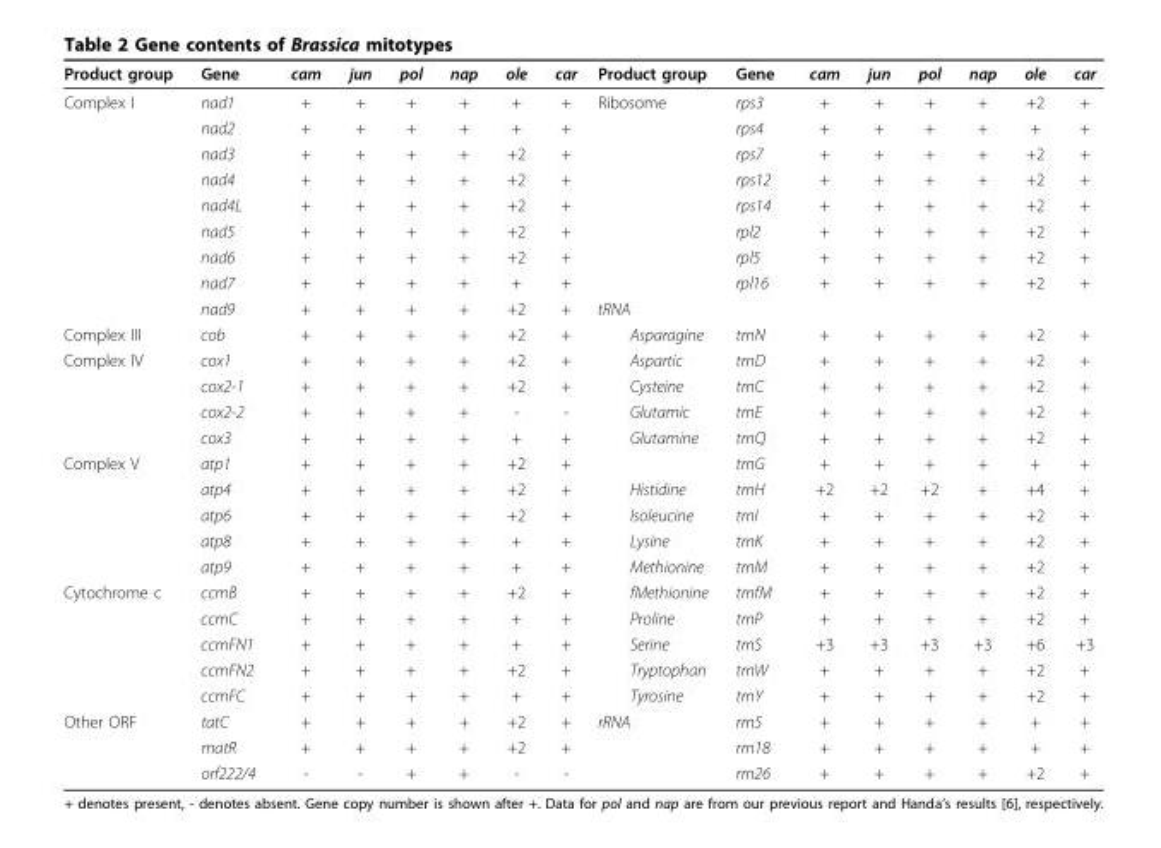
<table><thead><tr><td>Product group</td><td>Gene</td><td>cam</td><td>jun</td><td>pol</td><td>nap</td><td>ole</td><td>car</td><td>Product group</td><td>Gene</td><td>cam</td><td>jun</td><td>pol</td><td>nap</td><td>ole</td><td>car</td></tr></thead><tbody><tr><td rowspan="9">Complex I</td><td>nad1</td><td>+</td><td>+</td><td>+</td><td>+</td><td>+</td><td>+</td><td>Ribosome</td><td>rps3</td><td>+</td><td>+</td><td>+</td><td>+</td><td>+2</td><td>+</td></tr><tr><td>nad2</td><td>+</td><td>+</td><td>+</td><td>+</td><td>+</td><td>+</td><td></td><td>rps4</td><td>+</td><td>+</td><td>+</td><td>+</td><td>+</td><td>+</td></tr><tr><td>nad3</td><td>+</td><td>+</td><td>+</td><td>+</td><td>+2</td><td>+</td><td></td><td>rps7</td><td>+</td><td>+</td><td>+</td><td>+</td><td>+2</td><td>+</td></tr><tr><td>nad4</td><td>+</td><td>+</td><td>+</td><td>+</td><td>+2</td><td>+</td><td></td><td>rps12</td><td>+</td><td>+</td><td>+</td><td>+</td><td>+2</td><td>+</td></tr><tr><td>nad4L</td><td>+</td><td>+</td><td>+</td><td>+</td><td>+2</td><td>+</td><td></td><td>rps14</td><td>+</td><td>+</td><td>+</td><td>+</td><td>+2</td><td>+</td></tr><tr><td>nad5</td><td>+</td><td>+</td><td>+</td><td>+</td><td>+2</td><td>+</td><td></td><td>rpl2</td><td>+</td><td>+</td><td>+</td><td>+</td><td>+2</td><td>+</td></tr><tr><td>nad6</td><td>+</td><td>+</td><td>+</td><td>+</td><td>+2</td><td>+</td><td></td><td>rpl5</td><td>+</td><td>+</td><td>+</td><td>+</td><td>+2</td><td>+</td></tr><tr><td>nad7</td><td>+</td><td>+</td><td>+</td><td>+</td><td>+</td><td>+</td><td></td><td>rpl16</td><td>+</td><td>+</td><td>+</td><td>+</td><td>+2</td><td>+</td></tr><tr><td>nad9</td><td>+</td><td>+</td><td>+</td><td>+</td><td>+2</td><td>+</td><td>tRNA</td><td></td><td></td><td></td><td></td><td></td><td></td><td></td></tr><tr><td>Complex III</td><td>cob</td><td>+</td><td>+</td><td>+</td><td>+</td><td>+2</td><td>+</td><td>Asparagine</td><td>trnN</td><td>+</td><td>+</td><td>+</td><td>+</td><td>+2</td><td>+</td></tr><tr><td rowspan="4">Complex IV</td><td>cox1</td><td>+</td><td>+</td><td>+</td><td>+</td><td>+2</td><td>+</td><td>Aspartic</td><td>trnD</td><td>+</td><td>+</td><td>+</td><td>+</td><td>+2</td><td>+</td></tr><tr><td>cox2-1</td><td>+</td><td>+</td><td>+</td><td>+</td><td>+2</td><td>+</td><td>Cysteine</td><td>trnC</td><td>+</td><td>+</td><td>+</td><td>+</td><td>+2</td><td>+</td></tr><tr><td>cox2-2</td><td>+</td><td>+</td><td>+</td><td>+</td><td>-</td><td>-</td><td>Glutamic</td><td>trnE</td><td>+</td><td>+</td><td>+</td><td>+</td><td>+2</td><td>+</td></tr><tr><td>cox3</td><td>+</td><td>+</td><td>+</td><td>+</td><td>+</td><td>+</td><td>Glutamine</td><td>trnQ</td><td>+</td><td>+</td><td>+</td><td>+</td><td>+2</td><td>+</td></tr><tr><td rowspan="5">Complex V</td><td>atp1</td><td>+</td><td>+</td><td>+</td><td>+</td><td>+2</td><td>+</td><td></td><td>trnG</td><td>+</td><td>+</td><td>+</td><td>+</td><td>+</td><td>+</td></tr><tr><td>atp4</td><td>+</td><td>+</td><td>+</td><td>+</td><td>+2</td><td>+</td><td>Histidine</td><td>trnH</td><td>+2</td><td>+2</td><td>+2</td><td>+</td><td>+4</td><td>+</td></tr><tr><td>atp6</td><td>+</td><td>+</td><td>+</td><td>+</td><td>+2</td><td>+</td><td>Isoleucine</td><td>trnI</td><td>+</td><td>+</td><td>+</td><td>+</td><td>+2</td><td>+</td></tr><tr><td>atp8</td><td>+</td><td>+</td><td>+</td><td>+</td><td>+</td><td>+</td><td>Lysine</td><td>trnK</td><td>+</td><td>+</td><td>+</td><td>+</td><td>+2</td><td>+</td></tr><tr><td>atp9</td><td>+</td><td>+</td><td>+</td><td>+</td><td>+</td><td>+</td><td>Methionine</td><td>trnM</td><td>+</td><td>+</td><td>+</td><td>+</td><td>+2</td><td>+</td></tr><tr><td rowspan="5">Cytochrome c</td><td>ccmB</td><td>+</td><td>+</td><td>+</td><td>+</td><td>+2</td><td>+</td><td>fMethionine</td><td>trnfM</td><td>+</td><td>+</td><td>+</td><td>+</td><td>+2</td><td>+</td></tr><tr><td>ccmC</td><td>+</td><td>+</td><td>+</td><td>+</td><td>+</td><td>+</td><td>Proline</td><td>trnP</td><td>+</td><td>+</td><td>+</td><td>+</td><td>+2</td><td>+</td></tr><tr><td>ccmFN1</td><td>+</td><td>+</td><td>+</td><td>+</td><td>+</td><td>+</td><td>Serine</td><td>trnS</td><td>+3</td><td>+3</td><td>+3</td><td>+3</td><td>+6</td><td>+3</td></tr><tr><td>ccmFN2</td><td>+</td><td>+</td><td>+</td><td>+</td><td>+2</td><td>+</td><td>Tryptophan</td><td>trnW</td><td>+</td><td>+</td><td>+</td><td>+</td><td>+2</td><td>+</td></tr><tr><td>ccmFC</td><td>+</td><td>+</td><td>+</td><td>+</td><td>+</td><td>+</td><td>Tyrosine</td><td>trnY</td><td>+</td><td>+</td><td>+</td><td>+</td><td>+2</td><td>+</td></tr><tr><td rowspan="3">Other ORF</td><td>tatC</td><td>+</td><td>+</td><td>+</td><td>+</td><td>+2</td><td>+</td><td>rRNA</td><td>rrn5</td><td>+</td><td>+</td><td>+</td><td>+</td><td>+</td><td>+</td></tr><tr><td>matR</td><td>+</td><td>+</td><td>+</td><td>+</td><td>+2</td><td>+</td><td></td><td>rrn18</td><td>+</td><td>+</td><td>+</td><td>+</td><td>+</td><td>+</td></tr><tr><td>orf222/4</td><td>-</td><td>-</td><td>+</td><td>+</td><td>-</td><td>-</td><td></td><td>rrn26</td><td>+</td><td>+</td><td>+</td><td>+</td><td>+2</td><td>+</td></tr></tbody></table>